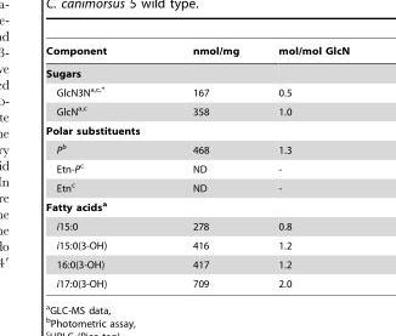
<table><thead><tr><td>Component</td><td>nmol/mg</td><td>mol/mol GlcN</td></tr></thead><tbody><tr><td colspan="3">Sugars</td></tr><tr><td>GlcN3N<sup>a,</sup>c<sup>,</sup>*</td><td>167</td><td>0.5</td></tr><tr><td>GlcN<sup>a,</sup>c</td><td>358</td><td>1.0</td></tr><tr><td colspan="3">Polar substituents</td></tr><tr><td>Pb</td><td>468</td><td>1.3</td></tr><tr><td>Etn-Pc</td><td>ND</td><td>-</td></tr><tr><td>Etn<sup>c</sup></td><td>ND</td><td>-</td></tr><tr><td colspan="3">Fatty acidsa</td></tr><tr><td>i15:0</td><td>278</td><td>0.8</td></tr><tr><td>i15:0(3-OH)</td><td>416</td><td>1.2</td></tr><tr><td>16:0(3-OH)</td><td>417</td><td>1.2</td></tr><tr><td>i17:0(3-OH)</td><td>709</td><td>2.0</td></tr></tbody></table>